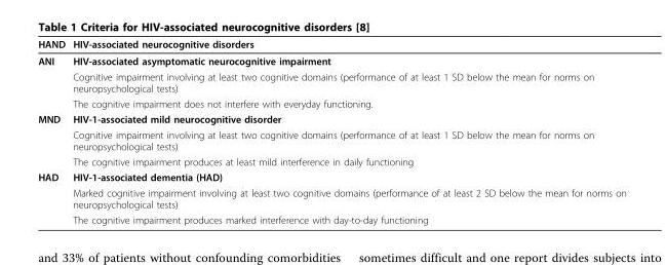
<table><thead><tr><td>HAND</td><td>HIV-associated neurocognitive disorders</td></tr></thead><tbody><tr><td rowspan="3">ANI</td><td>HIV-associated asymptomatic neurocognitive impairment</td></tr><tr><td>Cognitive impairment involving at least two cognitive domains (performance of at least 1 SD below the mean for norms on neuropsychological tests)</td></tr><tr><td>The cognitive impairment does not interfere with everyday functioning.</td></tr><tr><td rowspan="3">MND</td><td>HIV-1-associated mild neurocognitive disorder</td></tr><tr><td>Cognitive impairment involving at least two cognitive domains (performance of at least 1 SD below the mean for norms on neuropsychological tests)</td></tr><tr><td>The cognitive impairment produces at least mild interference in daily functioning</td></tr><tr><td rowspan="3">HAD</td><td>HIV-1-associated dementia (HAD)</td></tr><tr><td>Marked cognitive impairment involving at least two cognitive domains (performance of at least 2 SD below the mean for norms on neuropsychological tests)</td></tr><tr><td>The cognitive impairment produces marked interference with day-to-day functioning</td></tr></tbody></table>